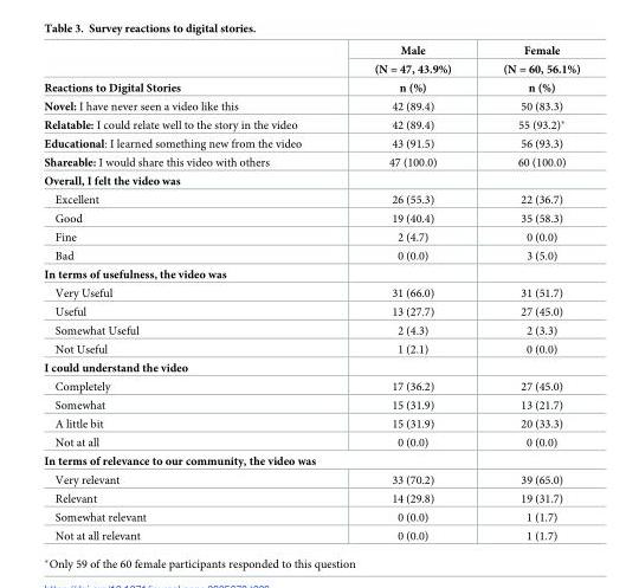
<table><thead><tr><td rowspan="2"></td><td rowspan="2">Male (N = 47, 43.9%)</td><td rowspan="2">Female (N = 60, 56.1%)</td></tr><tr></tr></thead><tbody><tr><td>Reactions to Digital Stories</td><td>n (%)</td><td>n (%)</td></tr><tr><td>Novel: I have never seen a video like this</td><td>42 (89.4)</td><td>50 (83.3)</td></tr><tr><td>Relatable: I could relate well to the story in the video</td><td>42 (89.4)</td><td>55 (93.2)*</td></tr><tr><td>Educational: I learned something new from the video</td><td>43 (91.5)</td><td>56 (93.3)</td></tr><tr><td>Shareable: I would share this video with others</td><td>47 (100.0)</td><td>60 (100.0)</td></tr><tr><td colspan="3">Overall, I felt the video was</td></tr><tr><td>Excellent</td><td>26 (55.3)</td><td>22 (36.7)</td></tr><tr><td>Good</td><td>19 (40.4)</td><td>35 (58.3)</td></tr><tr><td>Fine</td><td>2 (4.7)</td><td>0 (0.0)</td></tr><tr><td>Bad</td><td>0 (0.0)</td><td>3 (5.0)</td></tr><tr><td colspan="3">In terms of usefulness, the video was</td></tr><tr><td>Very Useful</td><td>31 (66.0)</td><td>31 (51.7)</td></tr><tr><td>Useful</td><td>13 (27.7)</td><td>27 (45.0)</td></tr><tr><td>Somewhat Useful</td><td>2 (4.3)</td><td>2 (3.3)</td></tr><tr><td>Not Useful</td><td>1 (2.1)</td><td>0 (0.0)</td></tr><tr><td colspan="3">I could understand the video</td></tr><tr><td>Completely</td><td>17 (36.2)</td><td>27 (45.0)</td></tr><tr><td>Somewhat</td><td>15 (31.9)</td><td>13 (21.7)</td></tr><tr><td>A little bit</td><td>15 (31.9)</td><td>20 (33.3)</td></tr><tr><td>Not at all</td><td>0 (0.0)</td><td>0 (0.0)</td></tr><tr><td colspan="3">In terms of relevance to our community, the video was</td></tr><tr><td>Very relevant</td><td>33 (70.2)</td><td>39 (65.0)</td></tr><tr><td>Relevant</td><td>14 (29.8)</td><td>19 (31.7)</td></tr><tr><td>Somewhat relevant</td><td>0 (0.0)</td><td>1 (1.7)</td></tr><tr><td>Not at all relevant</td><td>0 (0.0)</td><td>1 (1.7)</td></tr></tbody></table>